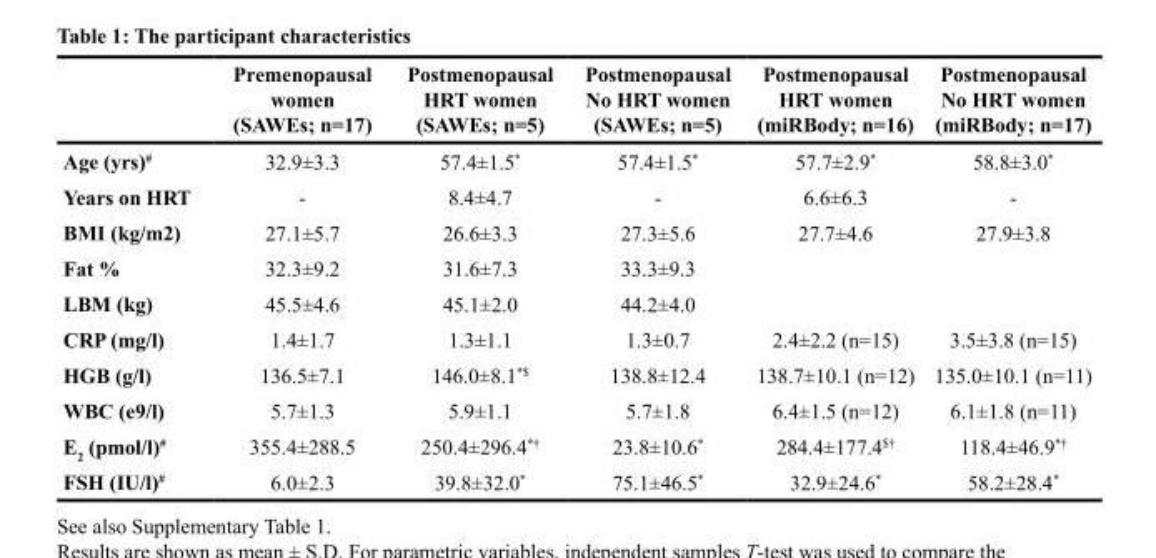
<table><thead><tr><td></td><td>Premenopausal women (SAWEs; n=17)</td><td>Postmenopausal HRT women (SAWEs; n=5)</td><td>Postmenopausal No HRT women (SAWEs; n=5)</td><td>Postmenopausal HRT women (miRBody; n=16)</td><td>Postmenopausal No HRT women (miRBody; n=17)</td></tr></thead><tbody><tr><td>Age (yrs)<sup>#</sup></td><td>32.9±3.3</td><td>57.4±1.5*</td><td>57.4±1.5*</td><td>57.7±2.9*</td><td>58.8±3.0*</td></tr><tr><td>Years on HRT</td><td>-</td><td>8.4±4.7</td><td>-</td><td>6.6±6.3</td><td>-</td></tr><tr><td>BMI (kg/m2)</td><td>27.1±5.7</td><td>26.6±3.3</td><td>27.3±5.6</td><td>27.7±4.6</td><td>27.9±3.8</td></tr><tr><td>Fat %</td><td>32.3±9.2</td><td>31.6±7.3</td><td>33.3±9.3</td><td></td><td></td></tr><tr><td>LBM (kg)</td><td>45.5±4.6</td><td>45.1±2.0</td><td>44.2±4.0</td><td></td><td></td></tr><tr><td>CRP (mg/l)</td><td>1.4±1.7</td><td>1.3±1.1</td><td>1.3±0.7</td><td>2.4±2.2 (n=15)</td><td>3.5±3.8 (n=15)</td></tr><tr><td>HGB (g/l)</td><td>136.5±7.1</td><td>146.0±8.1<sup>*$</sup></td><td>138.8±12.4</td><td>138.7±10.1 (n=12)</td><td>135.0±10.1 (n=11)</td></tr><tr><td>WBC (e9/l)</td><td>5.7±1.3</td><td>5.9±1.1</td><td>5.7±1.8</td><td>6.4±1.5 (n=12)</td><td>6.1±1.8 (n=11)</td></tr><tr><td>E<sub>2</sub> (pmol/l)<sup>#</sup></td><td>355.4±288.5</td><td>250.4±296.4<sup>*†</sup></td><td>23.8±10.6*</td><td>284.4±177.4<sup>$†</sup></td><td>118.4±46.9<sup>*†</sup></td></tr><tr><td>FSH (IU/l)<sup>#</sup></td><td>6.0±2.3</td><td>39.8±32.0*</td><td>75.1±46.5*</td><td>32.9±24.6*</td><td>58.2±28.4*</td></tr></tbody></table>